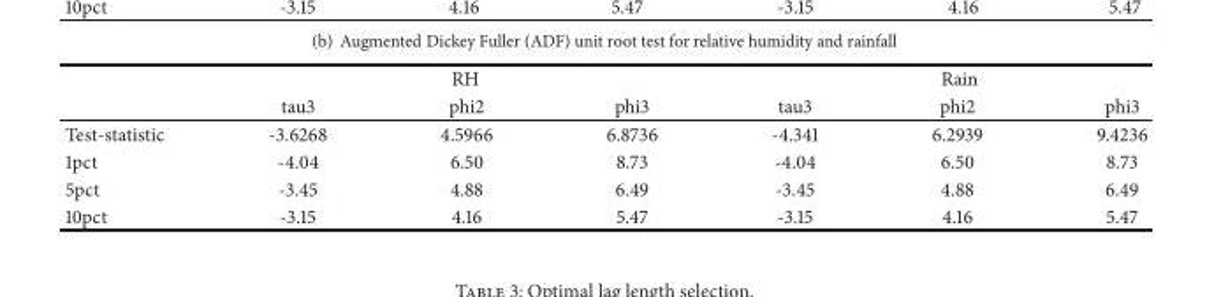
<table><thead><tr><td rowspan="2"></td><td colspan="3">RH</td><td colspan="3">Rain</td></tr><tr><td>tau3</td><td>phi2</td><td>phi3</td><td>tau3</td><td>phi2</td><td>phi3</td></tr></thead><tbody><tr><td>Test-statistic</td><td>-3.6268</td><td>4.5966</td><td>6.8736</td><td>-4.341</td><td>6.2939</td><td>9.4236</td></tr><tr><td>1pct</td><td>-4.04</td><td>6.50</td><td>8.73</td><td>-4.04</td><td>6.50</td><td>8.73</td></tr><tr><td>5pct</td><td>-3.45</td><td>4.88</td><td>6.49</td><td>-3.45</td><td>4.88</td><td>6.49</td></tr><tr><td>10pct</td><td>-3.15</td><td>4.16</td><td>5.47</td><td>-3.15</td><td>4.16</td><td>5.47</td></tr></tbody></table>